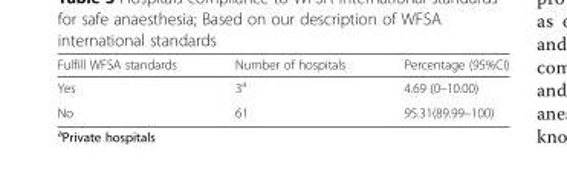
<table><thead><tr><td>Fulfill WFSA standards</td><td>Number of hospitals</td><td>Percentage (95%CI)</td></tr></thead><tbody><tr><td>Yes</td><td>3<sup>a</sup></td><td>4.69 (0–10.00)</td></tr><tr><td>No</td><td>61</td><td>95.31(89.99–100)</td></tr></tbody></table>